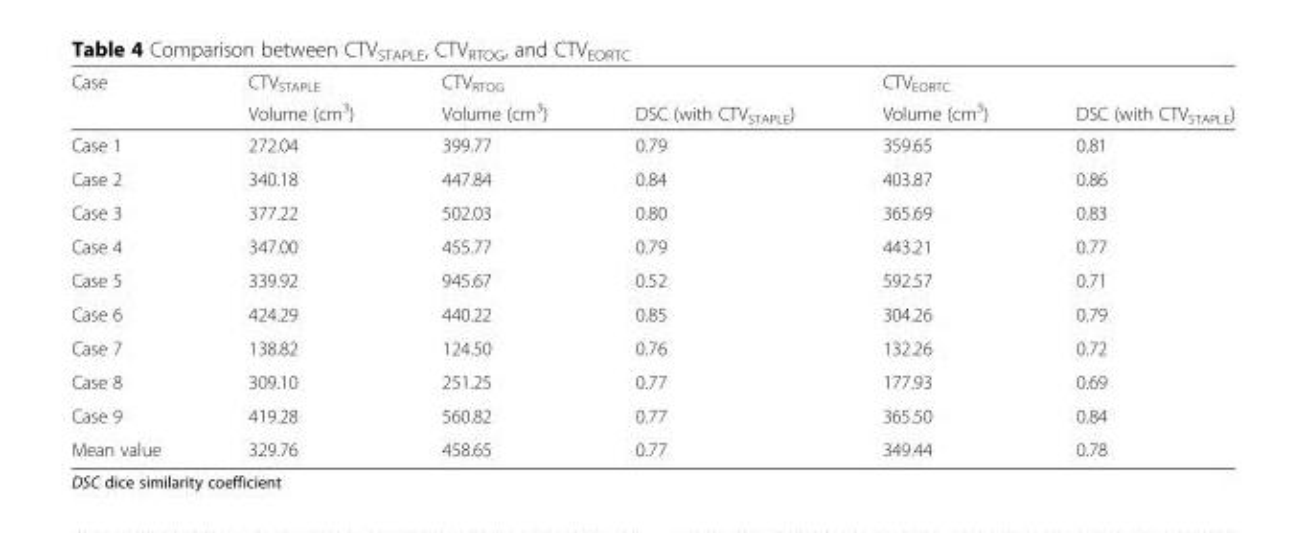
<table><thead><tr><td rowspan="2">Case</td><td rowspan="2">CTV<sub>STAPLE</sub> Volume (cm<sup>3</sup>)</td><td colspan="2">CTV<sub>RTOG</sub></td><td colspan="2">CTV<sub>EORTC</sub></td></tr><tr><td>Volume (cm<sup>3</sup>)</td><td>DSC (with CTV<sub>STAPLE</sub>)</td><td>Volume (cm<sup>3</sup>)</td><td>DSC (with CTV<sub>STAPLE</sub>)</td></tr></thead><tbody><tr><td>Case 1</td><td>272.04</td><td>399.77</td><td>0.79</td><td>359.65</td><td>0.81</td></tr><tr><td>Case 2</td><td>340.18</td><td>447.84</td><td>0.84</td><td>403.87</td><td>0.86</td></tr><tr><td>Case 3</td><td>377.22</td><td>502.03</td><td>0.80</td><td>365.69</td><td>0.83</td></tr><tr><td>Case 4</td><td>347.00</td><td>455.77</td><td>0.79</td><td>443.21</td><td>0.77</td></tr><tr><td>Case 5</td><td>339.92</td><td>945.67</td><td>0.52</td><td>592.57</td><td>0.71</td></tr><tr><td>Case 6</td><td>424.29</td><td>440.22</td><td>0.85</td><td>304.26</td><td>0.79</td></tr><tr><td>Case 7</td><td>138.82</td><td>124.50</td><td>0.76</td><td>132.26</td><td>0.72</td></tr><tr><td>Case 8</td><td>309.10</td><td>251.25</td><td>0.77</td><td>177.93</td><td>0.69</td></tr><tr><td>Case 9</td><td>419.28</td><td>560.82</td><td>0.77</td><td>365.50</td><td>0.84</td></tr><tr><td>Mean value</td><td>329.76</td><td>458.65</td><td>0.77</td><td>349.44</td><td>0.78</td></tr></tbody></table>